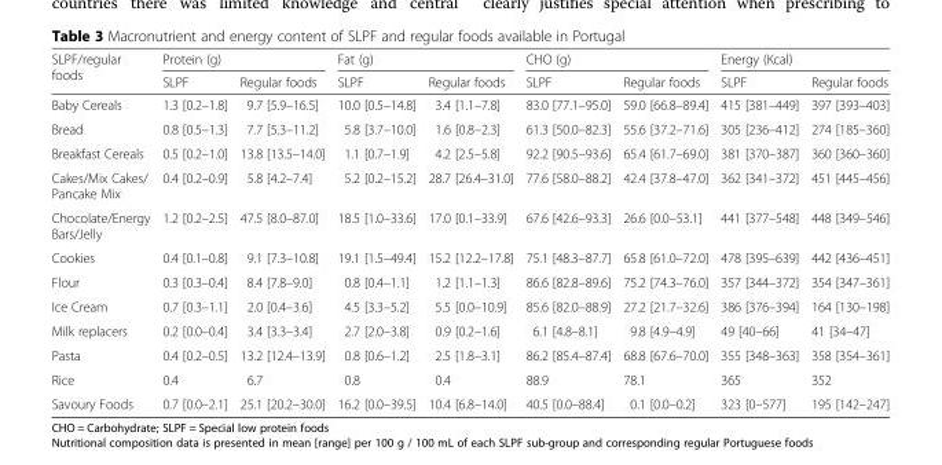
<table><thead><tr><td rowspan="2">SLPF/regular foods</td><td colspan="2">Protein (g)</td><td colspan="2">Fat (g)</td><td colspan="2">CHO (g)</td><td colspan="2">Energy (Kcal)</td></tr><tr><td>SLPF</td><td>Regular foods</td><td>SLPF</td><td>Regular foods</td><td>SLPF</td><td>Regular foods</td><td>SLPF</td><td>Regular foods</td></tr></thead><tbody><tr><td>Baby Cereals</td><td>1.3 [0.2–1.8]</td><td>9.7 [5.9–16.5]</td><td>10.0 [0.5–14.8]</td><td>3.4 [1.1–7.8]</td><td>83.0 [77.1–95.0]</td><td>59.0 [66.8–89.4]</td><td>415 [381–449]</td><td>397 [393–403]</td></tr><tr><td>Bread</td><td>0.8 [0.5–1.3]</td><td>7.7 [5.3–11.2]</td><td>5.8 [3.7–10.0]</td><td>1.6 [0.8–2.3]</td><td>61.3 [50.0–82.3]</td><td>55.6 [37.2–71.6]</td><td>305 [236–412]</td><td>274 [185–360]</td></tr><tr><td>Breakfast Cereals</td><td>0.5 [0.2–1.0]</td><td>13.8 [13.5–14.0]</td><td>1.1 [0.7–1.9]</td><td>4.2 [2.5–5.8]</td><td>92.2 [90.5–93.6]</td><td>65.4 [61.7–69.0]</td><td>381 [370–387]</td><td>360 [360–360]</td></tr><tr><td>Cakes/Mix Cakes/ Pancake Mix</td><td>0.4 [0.2–0.9]</td><td>5.8 [4.2–7.4]</td><td>5.2 [0.2–15.2]</td><td>28.7 [26.4–31.0]</td><td>77.6 [58.0–88.2]</td><td>42.4 [37.8–47.0]</td><td>362 [341–372]</td><td>451 [445–456]</td></tr><tr><td>Chocolate/Energy Bars/Jelly</td><td>1.2 [0.2–2.5]</td><td>47.5 [8.0–87.0]</td><td>18.5 [1.0–33.6]</td><td>17.0 [0.1–33.9]</td><td>67.6 [42.6–93.3]</td><td>26.6 [0.0–53.1]</td><td>441 [377–548]</td><td>448 [349–546]</td></tr><tr><td>Cookies</td><td>0.4 [0.1–0.8]</td><td>9.1 [7.3–10.8]</td><td>19.1 [1.5–49.4]</td><td>15.2 [12.2–17.8]</td><td>75.1 [48.3–87.7]</td><td>65.8 [61.0–72.0]</td><td>478 [395–639]</td><td>442 [436–451]</td></tr><tr><td>Flour</td><td>0.3 [0.3–0.4]</td><td>8.4 [7.8–9.0]</td><td>0.8 [0.4–1.1]</td><td>1.2 [1.1–1.3]</td><td>86.6 [82.8–89.6]</td><td>75.2 [74.3–76.0]</td><td>357 [344–372]</td><td>354 [347–361]</td></tr><tr><td>Ice Cream</td><td>0.7 [0.3–1.1]</td><td>2.0 [0.4–3.6]</td><td>4.5 [3.3–5.2]</td><td>5.5 [0.0–10.9]</td><td>85.6 [82.0–88.9]</td><td>27.2 [21.7–32.6]</td><td>386 [376–394]</td><td>164 [130–198]</td></tr><tr><td>Milk replacers</td><td>0.2 [0.0–0.4]</td><td>3.4 [3.3–3.4]</td><td>2.7 [2.0–3.8]</td><td>0.9 [0.2–1.6]</td><td>6.1 [4.8–8.1]</td><td>9.8 [4.9–4.9]</td><td>49 [40–66]</td><td>41 [34–47]</td></tr><tr><td>Pasta</td><td>0.4 [0.2–0.5]</td><td>13.2 [12.4–13.9]</td><td>0.8 [0.6–1.2]</td><td>2.5 [1.8–3.1]</td><td>86.2 [85.4–87.4]</td><td>68.8 [67.6–70.0]</td><td>355 [348–363]</td><td>358 [354–361]</td></tr><tr><td>Rice</td><td>0.4</td><td>6.7</td><td>0.8</td><td>0.4</td><td>88.9</td><td>78.1</td><td>365</td><td>352</td></tr><tr><td>Savoury Foods</td><td>0.7 [0.0–2.1]</td><td>25.1 [20.2–30.0]</td><td>16.2 [0.0–39.5]</td><td>10.4 [6.8–14.0]</td><td>40.5 [0.0–88.4]</td><td>0.1 [0.0–0.2]</td><td>323 [0–577]</td><td>195 [142–247]</td></tr></tbody></table>